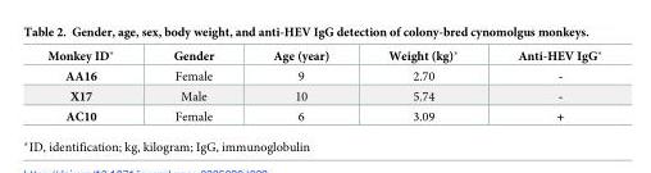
<table><thead><tr><td>Monkey ID*</td><td>Gender</td><td>Age (year)</td><td>Weight (kg)*</td><td>Anti-HEV IgG*</td></tr></thead><tbody><tr><td>AA16</td><td>Female</td><td>9</td><td>2.70</td><td>-</td></tr><tr><td>X17</td><td>Male</td><td>10</td><td>5.74</td><td>-</td></tr><tr><td>AC10</td><td>Female</td><td>6</td><td>3.09</td><td>+</td></tr></tbody></table>